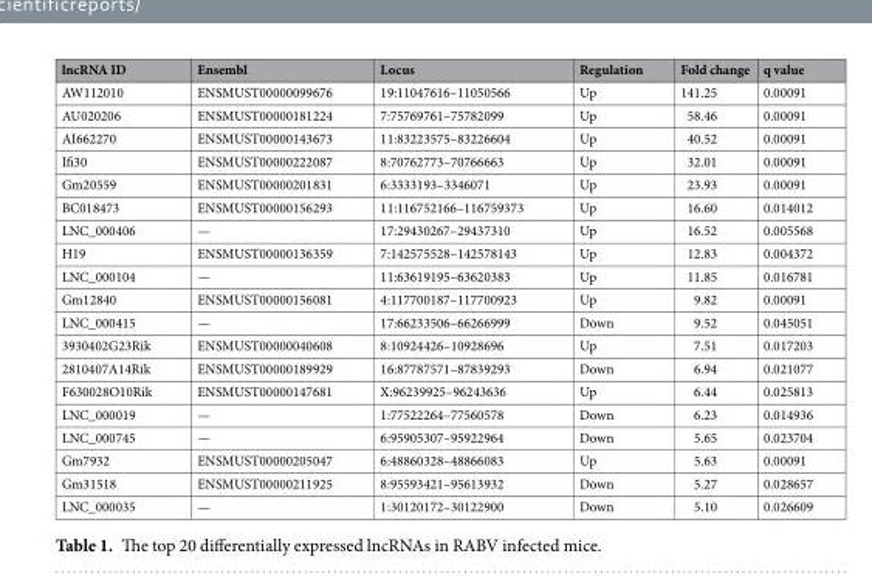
<table><thead><tr><td>lncRNA ID</td><td>Ensembl</td><td>Locus</td><td>Regulation</td><td>Fold change</td><td>q value</td></tr></thead><tbody><tr><td>AW112010</td><td>ENSMUST00000099676</td><td>19:11047616–11050566</td><td>Up</td><td>141.25</td><td>0.00091</td></tr><tr><td>AU020206</td><td>ENSMUST00000181224</td><td>7:75769761–75782099</td><td>Up</td><td>58.46</td><td>0.00091</td></tr><tr><td>AI662270</td><td>ENSMUST00000143673</td><td>11:83223575–83226604</td><td>Up</td><td>40.52</td><td>0.00091</td></tr><tr><td>Ifi30</td><td>ENSMUST00000222087</td><td>8:70762773–70766663</td><td>Up</td><td>32.01</td><td>0.00091</td></tr><tr><td>Gm20559</td><td>ENSMUST00000201831</td><td>6:3333193–3346071</td><td>Up</td><td>23.93</td><td>0.00091</td></tr><tr><td>BC018473</td><td>ENSMUST00000156293</td><td>11:116752166–116759373</td><td>Up</td><td>16.60</td><td>0.014012</td></tr><tr><td>LNC_000406</td><td>—</td><td>17:29430267–29437310</td><td>Up</td><td>16.52</td><td>0.005568</td></tr><tr><td>H19</td><td>ENSMUST00000136359</td><td>7:142575528–142578143</td><td>Up</td><td>12.83</td><td>0.004372</td></tr><tr><td>LNC_000104</td><td>—</td><td>11:63619195–63620383</td><td>Up</td><td>11.85</td><td>0.016781</td></tr><tr><td>Gm12840</td><td>ENSMUST00000156081</td><td>4:117700187–117700923</td><td>Up</td><td>9.82</td><td>0.00091</td></tr><tr><td>LNC_000415</td><td>—</td><td>17:66233506–66266999</td><td>Down</td><td>9.52</td><td>0.045051</td></tr><tr><td>3930402G23Rik</td><td>ENSMUST00000040608</td><td>8:10924426–10928696</td><td>Up</td><td>7.51</td><td>0.017203</td></tr><tr><td>2810407A14Rik</td><td>ENSMUST00000189929</td><td>16:87787571–87839293</td><td>Down</td><td>6.94</td><td>0.021077</td></tr><tr><td>F630028O10Rik</td><td>ENSMUST00000147681</td><td>X:96239925–96243636</td><td>Up</td><td>6.44</td><td>0.025813</td></tr><tr><td>LNC_000019</td><td>—</td><td>1:77522264–77560578</td><td>Down</td><td>6.23</td><td>0.014936</td></tr><tr><td>LNC_000745</td><td>—</td><td>6:95905307–95922964</td><td>Down</td><td>5.65</td><td>0.023704</td></tr><tr><td>Gm7932</td><td>ENSMUST00000205047</td><td>6:48860328–48866083</td><td>Up</td><td>5.63</td><td>0.00091</td></tr><tr><td>Gm31518</td><td>ENSMUST00000211925</td><td>8:95593421–95613932</td><td>Down</td><td>5.27</td><td>0.028657</td></tr><tr><td>LNC_000035</td><td>—</td><td>1:30120172–30122900</td><td>Down</td><td>5.10</td><td>0.026609</td></tr></tbody></table>